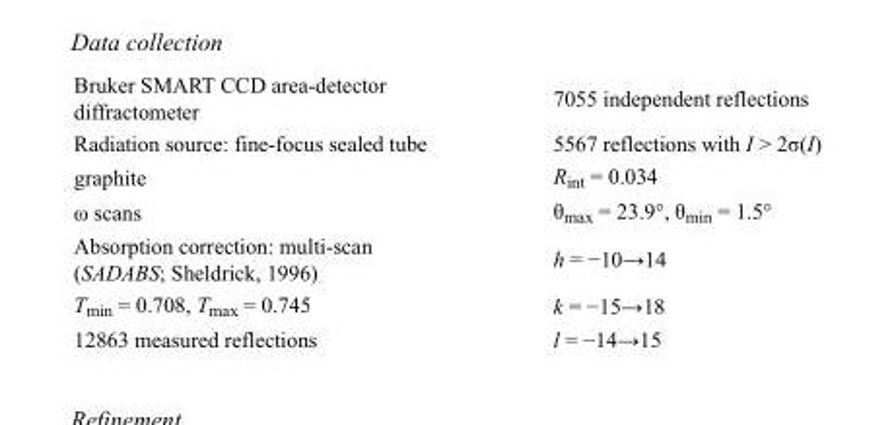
<table><tbody><tr><td>Bruker SMART CCD area-detector diffractometer</td><td>7055 independent reflections</td></tr><tr><td>Radiation source: fine-focus sealed tube</td><td>5567 reflections with I &gt; 2σ(I)</td></tr><tr><td>graphite</td><td>R<sub>int</sub> = 0.034</td></tr><tr><td>ω scans</td><td>θ<sub>max</sub> = 23.9°, θ<sub>min</sub> = 1.5°</td></tr><tr><td>Absorption correction: multi-scan (SADABS; Sheldrick, 1996)</td><td>h = −10→14</td></tr><tr><td>T<sub>min</sub> = 0.708, T<sub>max</sub> = 0.745</td><td>k = −15→18</td></tr><tr><td>12863 measured reflections</td><td>l = −14→15</td></tr></tbody></table>